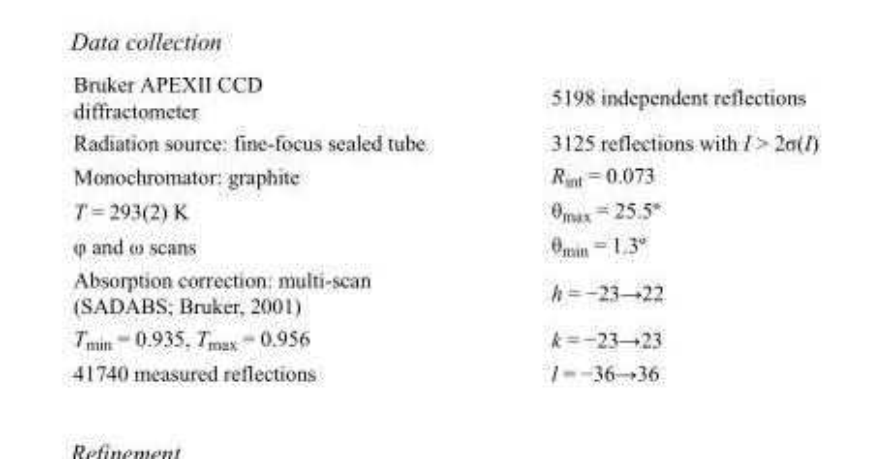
<table><tbody><tr><td>Bruker APEXII CCD diffractometer</td><td>5198 independent reflections</td></tr><tr><td>Radiation source: fine-focus sealed tube</td><td>3125 reflections with I &gt; 2σ(I)</td></tr><tr><td>Monochromator: graphite</td><td>Rint = 0.073</td></tr><tr><td>T = 293(2) K</td><td>θmax = 25.5º</td></tr><tr><td>φ and ω scans</td><td>θmin = 1.3º</td></tr><tr><td>Absorption correction: multi-scan (SADABS; Bruker, 2001)</td><td>h = −23→22</td></tr><tr><td>Tmin = 0.935, Tmax = 0.956</td><td>k = −23→23</td></tr><tr><td>41740 measured reflections</td><td>l = −36→36</td></tr></tbody></table>